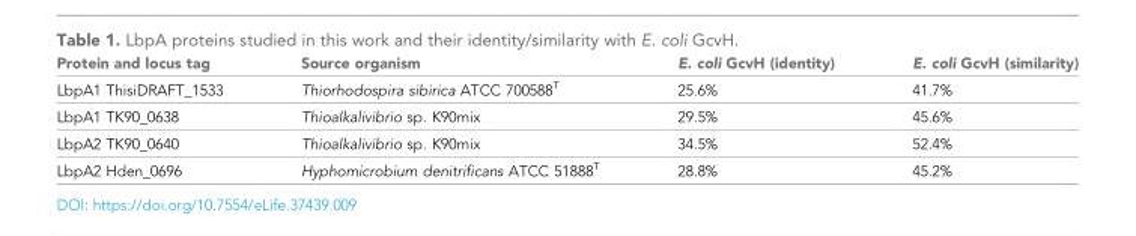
<table><thead><tr><td>Protein and locus tag</td><td>Source organism</td><td>E. coli GcvH (identity)</td><td>E. coli GcvH (similarity)</td></tr></thead><tbody><tr><td>LbpA1 ThisiDRAFT_1533</td><td>Thiorhodospira sibirica ATCC 700588<sup>T</sup></td><td>25.6%</td><td>41.7%</td></tr><tr><td>LbpA1 TK90_0638</td><td>Thioalkalivibrio sp. K90mix</td><td>29.5%</td><td>45.6%</td></tr><tr><td>LbpA2 TK90_0640</td><td>Thioalkalivibrio sp. K90mix</td><td>34.5%</td><td>52.4%</td></tr><tr><td>LbpA2 Hden_0696</td><td>Hyphomicrobium denitrificans ATCC 51888<sup>T</sup></td><td>28.8%</td><td>45.2%</td></tr></tbody></table>